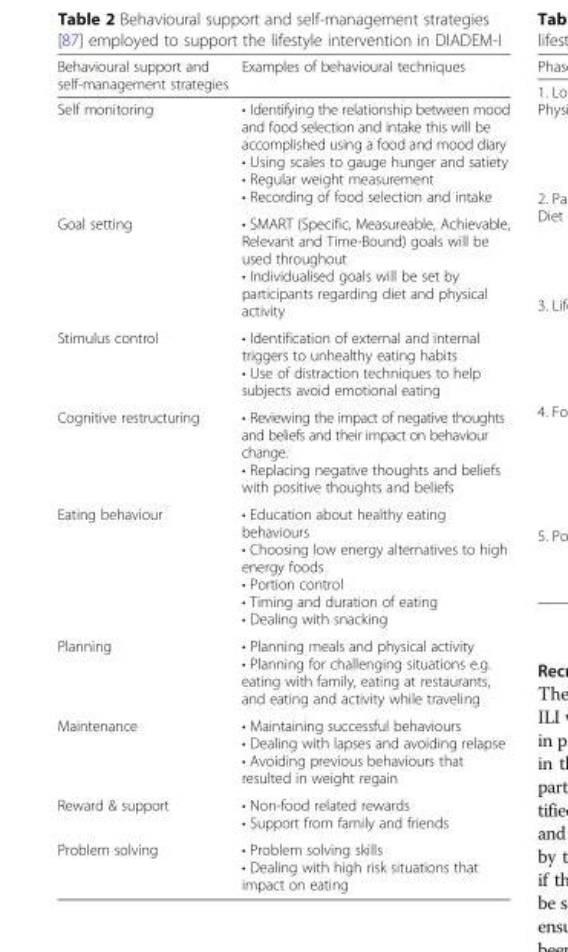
<table><thead><tr><td>Behavioural support and self-management strategies</td><td>Examples of behavioural techniques</td></tr></thead><tbody><tr><td>Self monitoring</td><td>• Identifying the relationship between mood and food selection and intake this will be accomplished using a food and mood diary • Using scales to gauge hunger and satiety • Regular weight measurement • Recording of food selection and intake</td></tr><tr><td>Goal setting</td><td>• SMART (Specific, Measureable, Achievable, Relevant and Time-Bound) goals will be used throughout • Individualised goals will be set by participants regarding diet and physical activity</td></tr><tr><td>Stimulus control</td><td>• Identification of external and internal triggers to unhealthy eating habits • Use of distraction techniques to help subjects avoid emotional eating</td></tr><tr><td>Cognitive restructuring</td><td>• Reviewing the impact of negative thoughts and beliefs and their impact on behaviour change. • Replacing negative thoughts and beliefs with positive thoughts and beliefs</td></tr><tr><td>Eating behaviour</td><td>• Education about healthy eating behaviours • Choosing low energy alternatives to high energy foods • Portion control • Timing and duration of eating • Dealing with snacking</td></tr><tr><td>Planning</td><td>• Planning meals and physical activity • Planning for challenging situations e.g. eating with family, eating at restaurants, and eating and activity while traveling</td></tr><tr><td>Maintenance</td><td>• Maintaining successful behaviours • Dealing with lapses and avoiding relapse • Avoiding previous behaviours that resulted in weight regain</td></tr><tr><td>Reward &amp; support</td><td>• Non-food related rewards • Support from family and friends</td></tr><tr><td>Problem solving</td><td>• Problem solving skills • Dealing with high risk situations that impact on eating</td></tr></tbody></table>